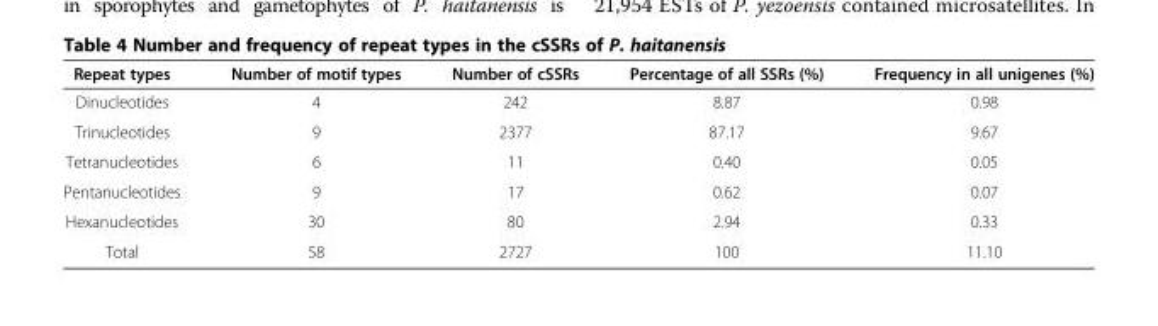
<table><thead><tr><td>Repeat types</td><td>Number of motif types</td><td>Number of cSSRs</td><td>Percentage of all SSRs (%)</td><td>Frequency in all unigenes (%)</td></tr></thead><tbody><tr><td>Dinucleotides</td><td>4</td><td>242</td><td>8.87</td><td>0.98</td></tr><tr><td>Trinucleotides</td><td>9</td><td>2377</td><td>87.17</td><td>9.67</td></tr><tr><td>Tetranucleotides</td><td>6</td><td>11</td><td>0.40</td><td>0.05</td></tr><tr><td>Pentanucleotides</td><td>9</td><td>17</td><td>0.62</td><td>0.07</td></tr><tr><td>Hexanucleotides</td><td>30</td><td>80</td><td>2.94</td><td>0.33</td></tr><tr><td>Total</td><td>58</td><td>2727</td><td>100</td><td>11.10</td></tr></tbody></table>